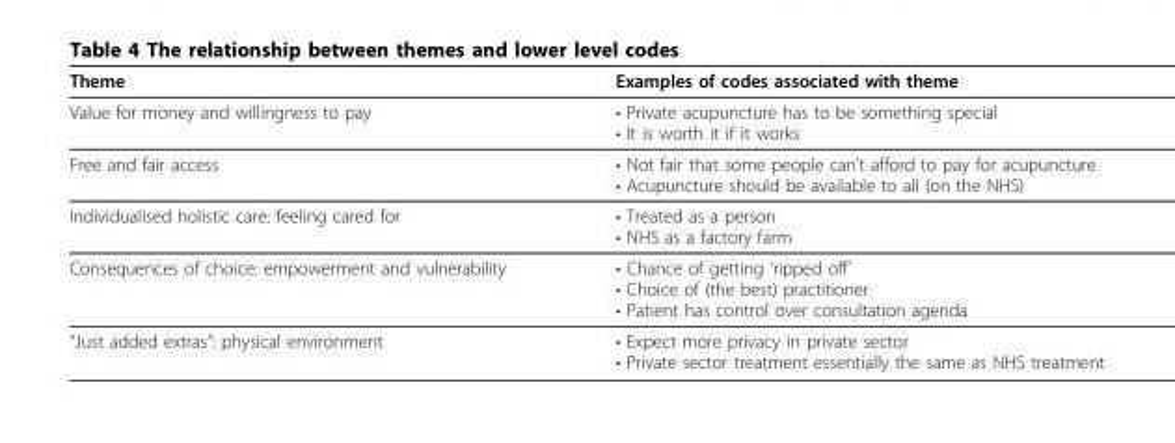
<table><thead><tr><td>Theme</td><td>Examples of codes associated with theme</td></tr></thead><tbody><tr><td>Value for money and willingness to pay</td><td>• Private acupuncture has to be something special • It is worth it if it works</td></tr><tr><td>Free and fair access</td><td>• Not fair that some people can’t afford to pay for acupuncture • Acupuncture should be available to all (on the NHS)</td></tr><tr><td>Individualised holistic care: feeling cared for</td><td>• Treated as a person • NHS as a factory farm</td></tr><tr><td>Consequences of choice: empowerment and vulnerability</td><td>• Chance of getting ‘ripped off’ • Choice of (the best) practitioner • Patient has control over consultation agenda</td></tr><tr><td>“Just added extras&quot;: physical environment</td><td>• Expect more privacy in private sector • Private sector treatment essentially the same as NHS treatment</td></tr></tbody></table>